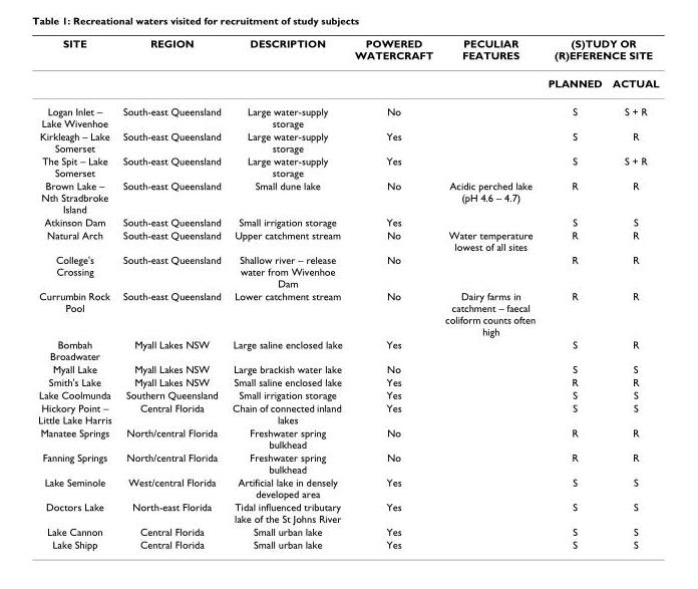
<table><thead><tr><td rowspan="2">SITE</td><td rowspan="2">REGION</td><td rowspan="2">DESCRIPTION</td><td rowspan="2">POWERED WATERCRAFT</td><td rowspan="2">PECULIAR FEATURES</td><td colspan="2">(S)TUDY OR (R)EFERENCE SITE</td></tr><tr><td>PLANNED</td><td>ACTUAL</td></tr></thead><tbody><tr><td>Logan Inlet – Lake Wivenhoe</td><td>South-east Queensland</td><td>Large water-supply storage</td><td>No</td><td></td><td>S</td><td>S + R</td></tr><tr><td>Kirkleagh – Lake Somerset</td><td>South-east Queensland</td><td>Large water-supply storage</td><td>Yes</td><td></td><td>S</td><td>R</td></tr><tr><td>The Spit – Lake Somerset</td><td>South-east Queensland</td><td>Large water-supply storage</td><td>Yes</td><td></td><td>S</td><td>S + R</td></tr><tr><td>Brown Lake – Nth Stradbroke Island</td><td>South-east Queensland</td><td>Small dune lake</td><td>No</td><td>Acidic perched lake (pH 4.6 – 4.7)</td><td>R</td><td>R</td></tr><tr><td>Atkinson Dam</td><td>South-east Queensland</td><td>Small irrigation storage</td><td>Yes</td><td></td><td>S</td><td>S</td></tr><tr><td>Natural Arch</td><td>South-east Queensland</td><td>Upper catchment stream</td><td>No</td><td>Water temperature lowest of all sites</td><td>R</td><td>R</td></tr><tr><td>College&#x27;s Crossing</td><td>South-east Queensland</td><td>Shallow river – release water from Wivenhoe Dam</td><td>No</td><td></td><td>R</td><td>R</td></tr><tr><td>Currumbin Rock Pool</td><td>South-east Queensland</td><td>Lower catchment stream</td><td>No</td><td>Dairy farms in catchment – faecal coliform counts often high</td><td>R</td><td>R</td></tr><tr><td>Bombah Broadwater</td><td>Myall Lakes NSW</td><td>Large saline enclosed lake</td><td>Yes</td><td></td><td>S</td><td>R</td></tr><tr><td>Myall Lake</td><td>Myall Lakes NSW</td><td>Large brackish water lake</td><td>No</td><td></td><td>S</td><td>S</td></tr><tr><td>Smith&#x27;s Lake</td><td>Myall Lakes NSW</td><td>Small saline enclosed lake</td><td>Yes</td><td></td><td>R</td><td>R</td></tr><tr><td>Lake Coolmunda</td><td>Southern Queensland</td><td>Small irrigation storage</td><td>Yes</td><td></td><td>S</td><td>S</td></tr><tr><td>Hickory Point – Little Lake Harris</td><td>Central Florida</td><td>Chain of connected inland lakes</td><td>Yes</td><td></td><td>S</td><td>S</td></tr><tr><td>Manatee Springs</td><td>North/central Florida</td><td>Freshwater spring bulkhead</td><td>No</td><td></td><td>R</td><td>R</td></tr><tr><td>Fanning Springs</td><td>North/central Florida</td><td>Freshwater spring bulkhead</td><td>No</td><td></td><td>R</td><td>R</td></tr><tr><td>Lake Seminole</td><td>West/central Florida</td><td>Artificial lake in densely developed area</td><td>Yes</td><td></td><td>S</td><td>S</td></tr><tr><td>Doctors Lake</td><td>North-east Florida</td><td>Tidal influenced tributary lake of the St Johns River</td><td>Yes</td><td></td><td>S</td><td>S</td></tr><tr><td>Lake Cannon</td><td>Central Florida</td><td>Small urban lake</td><td>Yes</td><td></td><td>S</td><td>S</td></tr><tr><td>Lake Shipp</td><td>Central Florida</td><td>Small urban lake</td><td>Yes</td><td></td><td>S</td><td>S</td></tr></tbody></table>